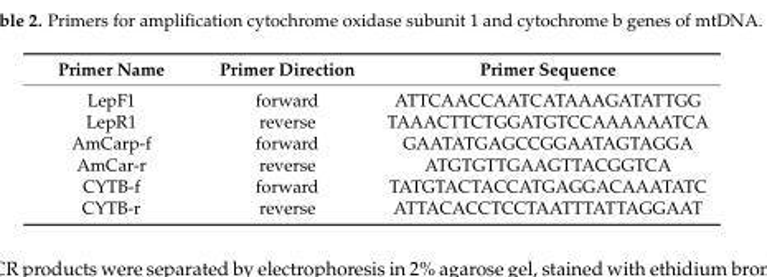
<table><thead><tr><td>Primer Name</td><td>Primer Direction</td><td>Primer Sequence</td></tr></thead><tbody><tr><td>LepF1</td><td>forward</td><td>ATTCAACCAATCATAAAGATATTGG</td></tr><tr><td>LepR1</td><td>reverse</td><td>TAAACTTCTGGATGTCCAAAAAATCA</td></tr><tr><td>AmCarp-f</td><td>forward</td><td>GAATATGAGCCGGAATAGTAGGA</td></tr><tr><td>AmCar-r</td><td>reverse</td><td>ATGTGTTGAAGTTACGGTCA</td></tr><tr><td>CYTB-f</td><td>forward</td><td>TATGTACTACCATGAGGACAAATATC</td></tr><tr><td>CYTB-r</td><td>reverse</td><td>ATTACACCTCCTAATTTATTAGGAAT</td></tr></tbody></table>